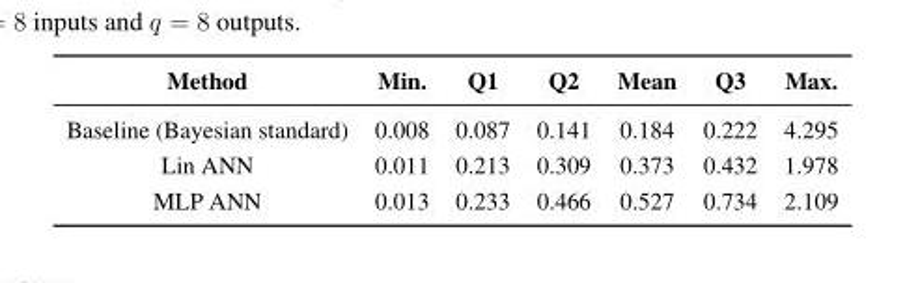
<table><thead><tr><td>Method</td><td>Min.</td><td>Q1</td><td>Q2</td><td>Mean</td><td>Q3</td><td>Max.</td></tr></thead><tbody><tr><td>Baseline (Bayesian standard)</td><td>0.008</td><td>0.087</td><td>0.141</td><td>0.184</td><td>0.222</td><td>4.295</td></tr><tr><td>Lin ANN</td><td>0.011</td><td>0.213</td><td>0.309</td><td>0.373</td><td>0.432</td><td>1.978</td></tr><tr><td>MLP ANN</td><td>0.013</td><td>0.233</td><td>0.466</td><td>0.527</td><td>0.734</td><td>2.109</td></tr></tbody></table>